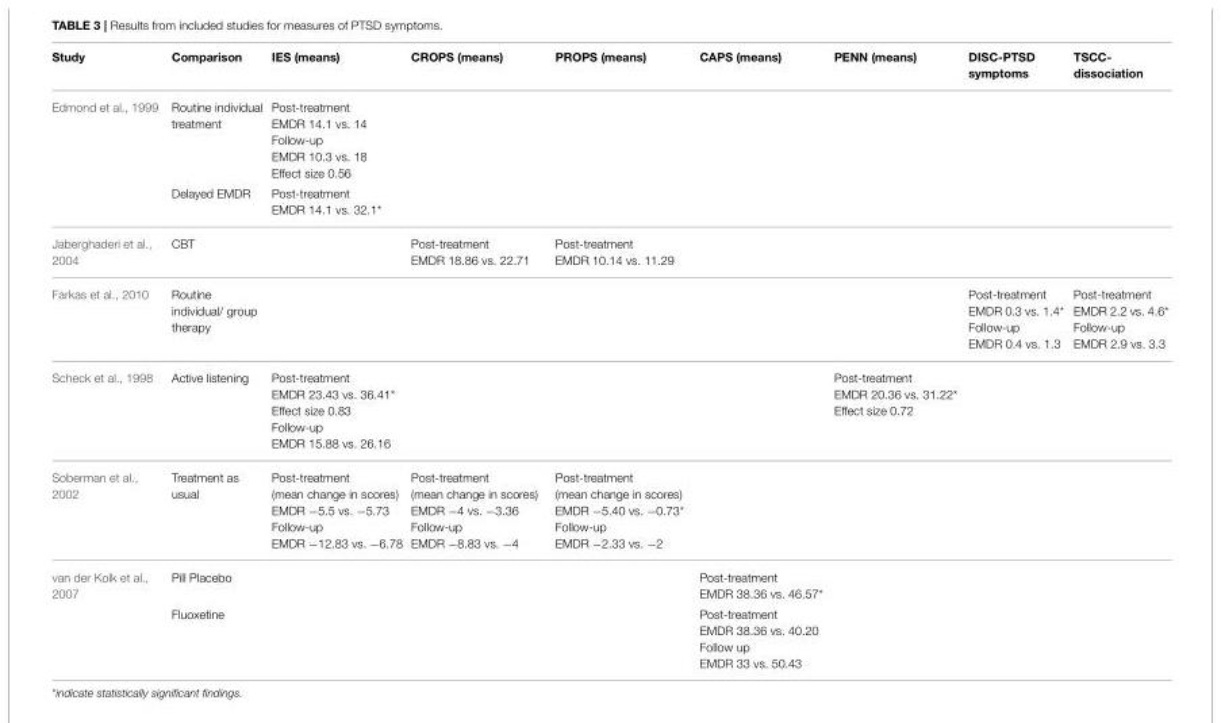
<table><thead><tr><td>Study</td><td>Comparison</td><td>IES (means)</td><td>CROPS (means)</td><td>PROPS (means)</td><td>CAPS (means)</td><td>PENN (means)</td><td>DISC-PTSD symptoms</td><td>TSCC- dissociation</td></tr></thead><tbody><tr><td rowspan="2">Edmond et al., 1999</td><td>Routine individual treatment</td><td>Post-treatment EMDR 14.1 vs. 14 Follow-up EMDR 10.3 vs. 18 Effect size 0.56</td><td></td><td></td><td></td><td></td><td></td><td></td></tr><tr><td>Delayed EMDR</td><td>Post-treatment EMDR 14.1 vs. 32.1*</td><td></td><td></td><td></td><td></td><td></td><td></td></tr><tr><td>Jaberghaderi et al., 2004</td><td>CBT</td><td></td><td>Post-treatment EMDR 18.86 vs. 22.71</td><td>Post-treatment EMDR 10.14 vs. 11.29</td><td></td><td></td><td></td><td></td></tr><tr><td>Farkas et al., 2010</td><td>Routine individual/ group therapy</td><td></td><td></td><td></td><td></td><td></td><td>Post-treatment EMDR 0.3 vs. 1.4* Follow-up EMDR 0.4 vs. 1.3</td><td>Post-treatment EMDR 2.2 vs. 4.6* Follow-up EMDR 2.9 vs. 3.3</td></tr><tr><td>Scheck et al., 1998</td><td>Active listening</td><td>Post-treatment EMDR 23.43 vs. 36.41* Effect size 0.83 Follow-up EMDR 15.88 vs. 26.16</td><td></td><td></td><td></td><td>Post-treatment EMDR 20.36 vs. 31.22* Effect size 0.72</td><td></td><td></td></tr><tr><td>Soberman et al., 2002</td><td>Treatment as usual</td><td>Post-treatment (mean change in scores) EMDR −5.5 vs. −5.73 Follow-up EMDR −12.83 vs. −6.78</td><td>Post-treatment (mean change in scores) EMDR −4 vs. −3.36 Follow-up EMDR −8.83 vs. −4</td><td>Post-treatment (mean change in scores) EMDR −5.40 vs. −0.73* Follow-up EMDR −2.33 vs. −2</td><td></td><td></td><td></td><td></td></tr><tr><td rowspan="2">van der Kolk et al., 2007</td><td>Pill Placebo</td><td></td><td></td><td></td><td>Post-treatment EMDR 38.36 vs. 46.57*</td><td></td><td></td><td></td></tr><tr><td>Fluoxetine</td><td></td><td></td><td></td><td>Post-treatment EMDR 38.36 vs. 40.20 Follow up EMDR 33 vs. 50.43</td><td></td><td></td><td></td></tr></tbody></table>